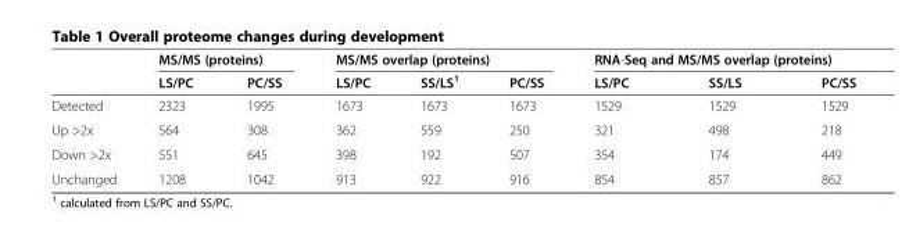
<table><thead><tr><td rowspan="2"></td><td colspan="2">MS/MS (proteins)</td><td colspan="3">MS/MS overlap (proteins)</td><td colspan="3">RNA-Seq and MS/MS overlap (proteins)</td></tr><tr><td>LS/PC</td><td>PC/SS</td><td>LS/PC</td><td>SS/LS<sup>1</sup></td><td>PC/SS</td><td>LS/PC</td><td>SS/LS</td><td>PC/SS</td></tr></thead><tbody><tr><td>Detected</td><td>2323</td><td>1995</td><td>1673</td><td>1673</td><td>1673</td><td>1529</td><td>1529</td><td>1529</td></tr><tr><td>Up &gt;2x</td><td>564</td><td>308</td><td>362</td><td>559</td><td>250</td><td>321</td><td>498</td><td>218</td></tr><tr><td>Down &gt;2x</td><td>551</td><td>645</td><td>398</td><td>192</td><td>507</td><td>354</td><td>174</td><td>449</td></tr><tr><td>Unchanged</td><td>1208</td><td>1042</td><td>913</td><td>922</td><td>916</td><td>854</td><td>857</td><td>862</td></tr></tbody></table>